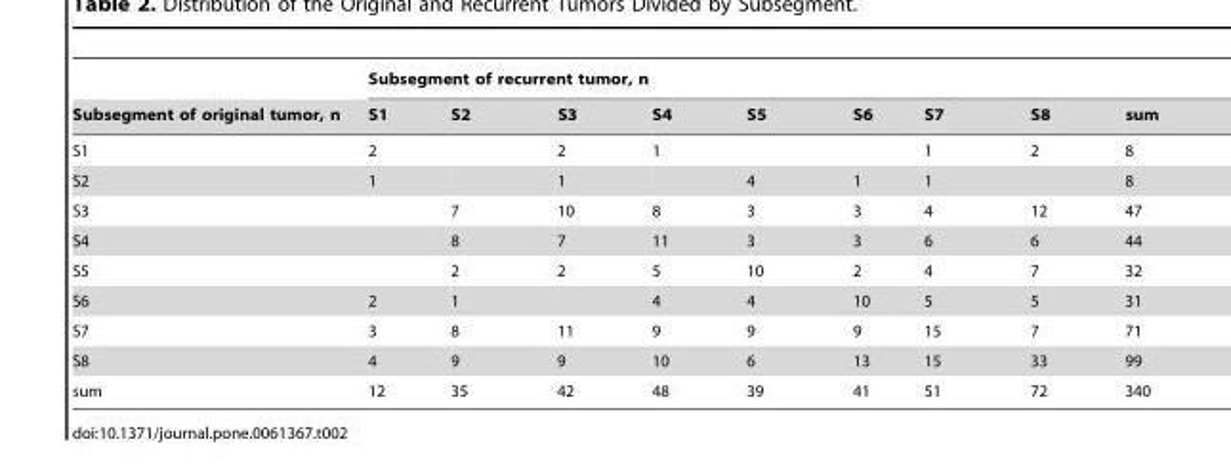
<table><thead><tr><td rowspan="2">Subsegment of original tumor, n</td><td colspan="9">Subsegment of recurrent tumor, n</td></tr><tr><td>S1</td><td>S2</td><td>S3</td><td>S4</td><td>S5</td><td>S6</td><td>S7</td><td>S8</td><td>sum</td></tr></thead><tbody><tr><td>S1</td><td>2</td><td></td><td>2</td><td>1</td><td></td><td></td><td>1</td><td>2</td><td>8</td></tr><tr><td>S2</td><td>1</td><td></td><td>1</td><td></td><td>4</td><td>1</td><td>1</td><td></td><td>8</td></tr><tr><td>S3</td><td></td><td>7</td><td>10</td><td>8</td><td>3</td><td>3</td><td>4</td><td>12</td><td>47</td></tr><tr><td>S4</td><td></td><td>8</td><td>7</td><td>11</td><td>3</td><td>3</td><td>6</td><td>6</td><td>44</td></tr><tr><td>S5</td><td></td><td>2</td><td>2</td><td>5</td><td>10</td><td>2</td><td>4</td><td>7</td><td>32</td></tr><tr><td>S6</td><td>2</td><td>1</td><td></td><td>4</td><td>4</td><td>10</td><td>5</td><td>5</td><td>31</td></tr><tr><td>S7</td><td>3</td><td>8</td><td>11</td><td>9</td><td>9</td><td>9</td><td>15</td><td>7</td><td>71</td></tr><tr><td>S8</td><td>4</td><td>9</td><td>9</td><td>10</td><td>6</td><td>13</td><td>15</td><td>33</td><td>99</td></tr><tr><td>sum</td><td>12</td><td>35</td><td>42</td><td>48</td><td>39</td><td>41</td><td>51</td><td>72</td><td>340</td></tr></tbody></table>